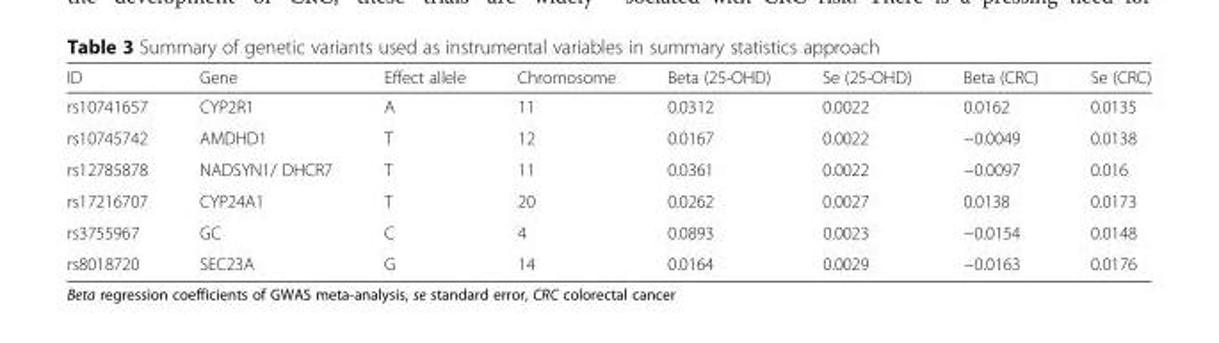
<table><thead><tr><td>ID</td><td>Gene</td><td>Effect allele</td><td>Chromosome</td><td>Beta (25-OHD)</td><td>Se (25-OHD)</td><td>Beta (CRC)</td><td>Se (CRC)</td></tr></thead><tbody><tr><td>rs10741657</td><td>CYP2R1</td><td>A</td><td>11</td><td>0.0312</td><td>0.0022</td><td>0.0162</td><td>0.0135</td></tr><tr><td>rs10745742</td><td>AMDHD1</td><td>T</td><td>12</td><td>0.0167</td><td>0.0022</td><td>−0.0049</td><td>0.0138</td></tr><tr><td>rs12785878</td><td>NADSYN1/ DHCR7</td><td>T</td><td>11</td><td>0.0361</td><td>0.0022</td><td>−0.0097</td><td>0.016</td></tr><tr><td>rs17216707</td><td>CYP24A1</td><td>T</td><td>20</td><td>0.0262</td><td>0.0027</td><td>0.0138</td><td>0.0173</td></tr><tr><td>rs3755967</td><td>GC</td><td>C</td><td>4</td><td>0.0893</td><td>0.0023</td><td>−0.0154</td><td>0.0148</td></tr><tr><td>rs8018720</td><td>SEC23A</td><td>G</td><td>14</td><td>0.0164</td><td>0.0029</td><td>−0.0163</td><td>0.0176</td></tr></tbody></table>